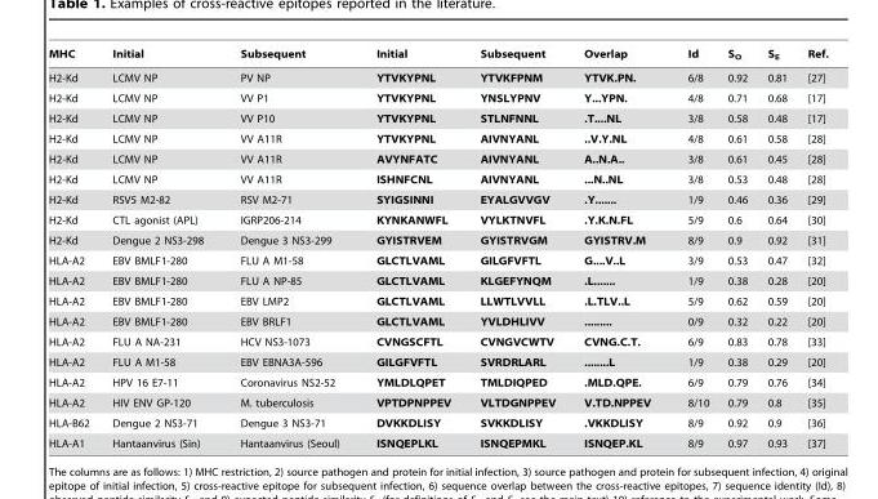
<table><thead><tr><td>MHC</td><td>Initial</td><td>Subsequent</td><td>Initial</td><td>Subsequent</td><td>Overlap</td><td>Id</td><td>S<sub>O</sub></td><td>S<sub>E</sub></td><td>Ref.</td></tr></thead><tbody><tr><td>H2-Kd</td><td>LCMV NP</td><td>PV NP</td><td>YTVKYPNL</td><td>YTVKFPNM</td><td>YTVK.PN.</td><td>6/8</td><td>0.92</td><td>0.81</td><td>[27]</td></tr><tr><td>H2-Kd</td><td>LCMV NP</td><td>VV P1</td><td>YTVKYPNL</td><td>YNSLYPNV</td><td>Y...YPN.</td><td>4/8</td><td>0.71</td><td>0.68</td><td>[17]</td></tr><tr><td>H2-Kd</td><td>LCMV NP</td><td>VV P10</td><td>YTVKYPNL</td><td>STLNFNNL</td><td>.T....NL</td><td>3/8</td><td>0.58</td><td>0.48</td><td>[17]</td></tr><tr><td>H2-Kd</td><td>LCMV NP</td><td>VV A11R</td><td>YTVKYPNL</td><td>AIVNYANL</td><td>..V.Y.NL</td><td>4/8</td><td>0.61</td><td>0.58</td><td>[28]</td></tr><tr><td>H2-Kd</td><td>LCMV NP</td><td>VV A11R</td><td>AVYNFATC</td><td>AIVNYANL</td><td>A..N.A..</td><td>3/8</td><td>0.61</td><td>0.45</td><td>[28]</td></tr><tr><td>H2-Kd</td><td>LCMV NP</td><td>VV A11R</td><td>ISHNFCNL</td><td>AIVNYANL</td><td>...N..NL</td><td>3/8</td><td>0.53</td><td>0.48</td><td>[28]</td></tr><tr><td>H2-Kd</td><td>RSV5 M2-82</td><td>RSV M2-71</td><td>SYIGSINNI</td><td>EYALGVVGV</td><td>.Y.......</td><td>1/9</td><td>0.46</td><td>0.36</td><td>[29]</td></tr><tr><td>H2-Kd</td><td>CTL agonist (APL)</td><td>IGRP206-214</td><td>KYNKANWFL</td><td>VYLKTNVFL</td><td>.Y.K.N.FL</td><td>5/9</td><td>0.6</td><td>0.64</td><td>[30]</td></tr><tr><td>H2-Kd</td><td>Dengue 2 NS3-298</td><td>Dengue 3 NS3-299</td><td>GYISTRVEM</td><td>GYISTRVGM</td><td>GYISTRV.M</td><td>8/9</td><td>0.9</td><td>0.92</td><td>[31]</td></tr><tr><td>HLA-A2</td><td>EBV BMLF1-280</td><td>FLU A M1-58</td><td>GLCTLVAML</td><td>GILGFVFTL</td><td>G....V..L</td><td>3/9</td><td>0.53</td><td>0.47</td><td>[32]</td></tr><tr><td>HLA-A2</td><td>EBV BMLF1-280</td><td>FLU A NP-85</td><td>GLCTLVAML</td><td>KLGEFYNQM</td><td>.L.......</td><td>1/9</td><td>0.38</td><td>0.28</td><td>[20]</td></tr><tr><td>HLA-A2</td><td>EBV BMLF1-280</td><td>EBV LMP2</td><td>GLCTLVAML</td><td>LLWTLVVLL</td><td>.L.TLV..L</td><td>5/9</td><td>0.62</td><td>0.59</td><td>[20]</td></tr><tr><td>HLA-A2</td><td>EBV BMLF1-280</td><td>EBV BRLF1</td><td>GLCTLVAML</td><td>YVLDHLIVV</td><td>.........</td><td>0/9</td><td>0.32</td><td>0.22</td><td>[20]</td></tr><tr><td>HLA-A2</td><td>FLU A NA-231</td><td>HCV NS3-1073</td><td>CVNGSCFTL</td><td>CVNGVCWTV</td><td>CVNG.C.T.</td><td>6/9</td><td>0.83</td><td>0.78</td><td>[33]</td></tr><tr><td>HLA-A2</td><td>FLU A M1-58</td><td>EBV EBNA3A-596</td><td>GILGFVFTL</td><td>SVRDRLARL</td><td>........L</td><td>1/9</td><td>0.38</td><td>0.29</td><td>[20]</td></tr><tr><td>HLA-A2</td><td>HPV 16 E7-11</td><td>Coronavirus NS2-52</td><td>YMLDLQPET</td><td>TMLDIQPED</td><td>.MLD.QPE.</td><td>6/9</td><td>0.79</td><td>0.76</td><td>[34]</td></tr><tr><td>HLA-A2</td><td>HIV ENV GP-120</td><td>M. tuberculosis</td><td>VPTDPNPPEV</td><td>VLTDGNPPEV</td><td>V.TD.NPPEV</td><td>8/10</td><td>0.79</td><td>0.8</td><td>[35]</td></tr><tr><td>HLA-B62</td><td>Dengue 2 NS3-71</td><td>Dengue 3 NS3-71</td><td>DVKKDLISY</td><td>SVKKDLISY</td><td>.VKKDLISY</td><td>8/9</td><td>0.92</td><td>0.9</td><td>[36]</td></tr><tr><td>HLA-A1</td><td>Hantaanvirus (Sin)</td><td>Hantaanvirus (Seoul)</td><td>ISNQEPLKL</td><td>ISNQEPMKL</td><td>ISNQEP.KL</td><td>8/9</td><td>0.97</td><td>0.93</td><td>[37]</td></tr></tbody></table>